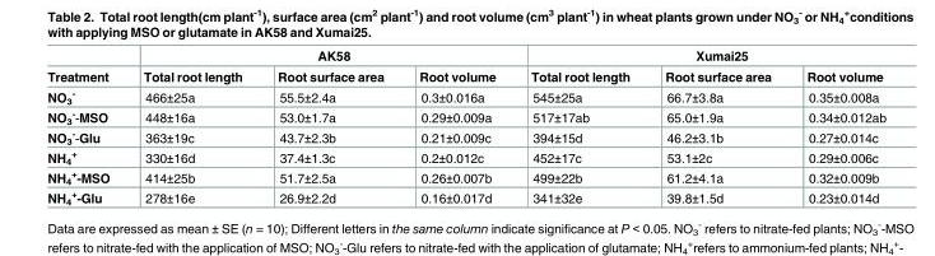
<table><thead><tr><td rowspan="2">Treatment</td><td colspan="3">AK58</td><td colspan="3">Xumai25</td></tr><tr><td>Total root length</td><td>Root surface area</td><td>Root volume</td><td>Total root length</td><td>Root surface area</td><td>Root volume</td></tr></thead><tbody><tr><td>NO<sub>3</sub> <sup>-</sup></td><td>466±25a</td><td>55.5±2.4a</td><td>0.3±0.016a</td><td>545±25a</td><td>66.7±3.8a</td><td>0.35±0.008a</td></tr><tr><td>NO<sub>3</sub> <sup>-</sup>-MSO</td><td>448±16a</td><td>53.0±1.7a</td><td>0.29±0.009a</td><td>517±17ab</td><td>65.0±1.9a</td><td>0.34±0.012ab</td></tr><tr><td>NO<sub>3</sub> <sup>-</sup>-Glu</td><td>363±19c</td><td>43.7±2.3b</td><td>0.21±0.009c</td><td>394±15d</td><td>46.2±3.1b</td><td>0.27±0.014c</td></tr><tr><td>NH<sub>4</sub> <sup>+</sup></td><td>330±16d</td><td>37.4±1.3c</td><td>0.2±0.012c</td><td>452±17c</td><td>53.1±2c</td><td>0.29±0.006c</td></tr><tr><td>NH<sub>4</sub> <sup>+</sup>-MSO</td><td>414±25b</td><td>51.7±2.5a</td><td>0.26±0.007b</td><td>499±22b</td><td>61.2±4.1a</td><td>0.32±0.009b</td></tr><tr><td>NH<sub>4</sub> <sup>+</sup>-Glu</td><td>278±16e</td><td>26.9±2.2d</td><td>0.16±0.017d</td><td>341±32e</td><td>39.8±1.5d</td><td>0.23±0.014d</td></tr></tbody></table>